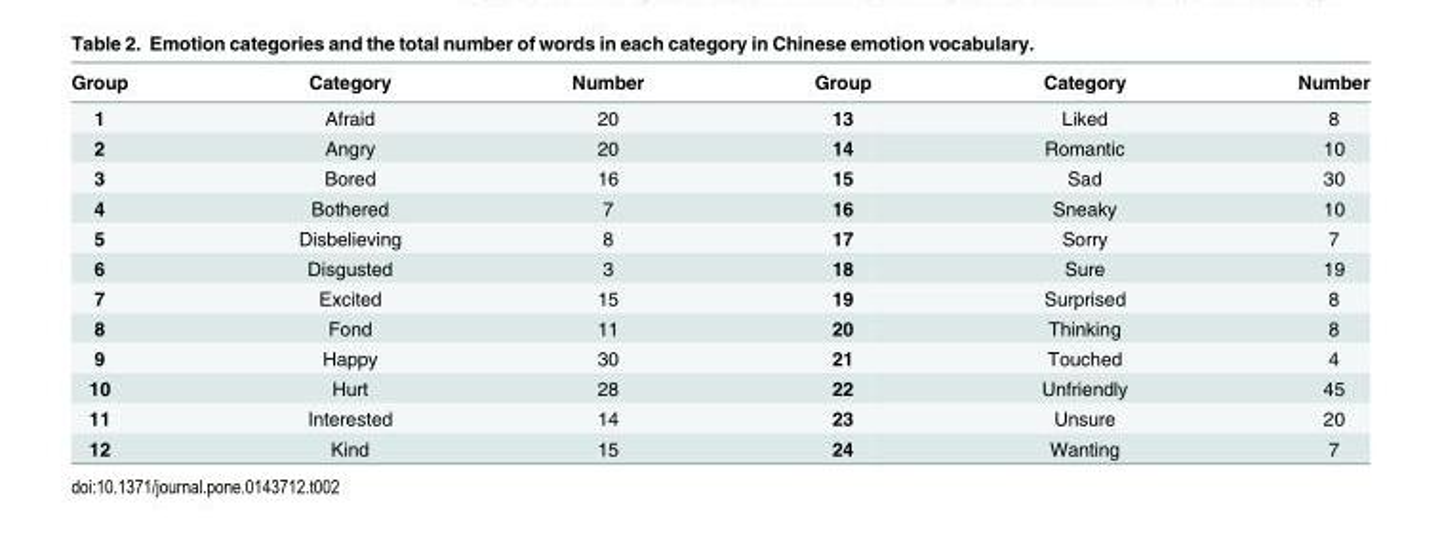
<table><thead><tr><td>Group</td><td>Category</td><td>Number</td><td>Group</td><td>Category</td><td>Number</td></tr></thead><tbody><tr><td>1</td><td>Afraid</td><td>20</td><td>13</td><td>Liked</td><td>8</td></tr><tr><td>2</td><td>Angry</td><td>20</td><td>14</td><td>Romantic</td><td>10</td></tr><tr><td>3</td><td>Bored</td><td>16</td><td>15</td><td>Sad</td><td>30</td></tr><tr><td>4</td><td>Bothered</td><td>7</td><td>16</td><td>Sneaky</td><td>10</td></tr><tr><td>5</td><td>Disbelieving</td><td>8</td><td>17</td><td>Sorry</td><td>7</td></tr><tr><td>6</td><td>Disgusted</td><td>3</td><td>18</td><td>Sure</td><td>19</td></tr><tr><td>7</td><td>Excited</td><td>15</td><td>19</td><td>Surprised</td><td>8</td></tr><tr><td>8</td><td>Fond</td><td>11</td><td>20</td><td>Thinking</td><td>8</td></tr><tr><td>9</td><td>Happy</td><td>30</td><td>21</td><td>Touched</td><td>4</td></tr><tr><td>10</td><td>Hurt</td><td>28</td><td>22</td><td>Unfriendly</td><td>45</td></tr><tr><td>11</td><td>Interested</td><td>14</td><td>23</td><td>Unsure</td><td>20</td></tr><tr><td>12</td><td>Kind</td><td>15</td><td>24</td><td>Wanting</td><td>7</td></tr></tbody></table>